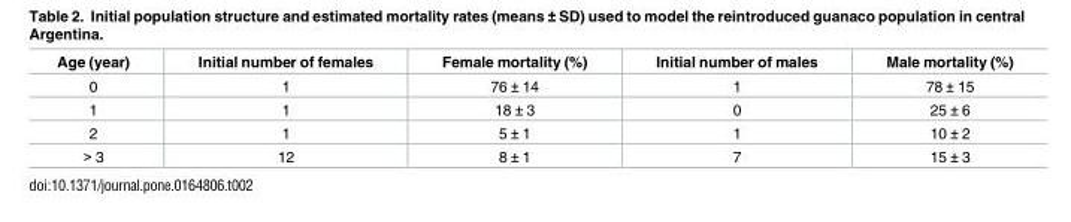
<table><thead><tr><td>Age (year)</td><td>Initial number of females</td><td>Female mortality (%)</td><td>Initial number of males</td><td>Male mortality (%)</td></tr></thead><tbody><tr><td>0</td><td>1</td><td>76 ± 14</td><td>1</td><td>78 ± 15</td></tr><tr><td>1</td><td>1</td><td>18 ± 3</td><td>0</td><td>25 ± 6</td></tr><tr><td>2</td><td>1</td><td>5 ± 1</td><td>1</td><td>10 ± 2</td></tr><tr><td>&gt; 3</td><td>12</td><td>8 ± 1</td><td>7</td><td>15 ± 3</td></tr></tbody></table>